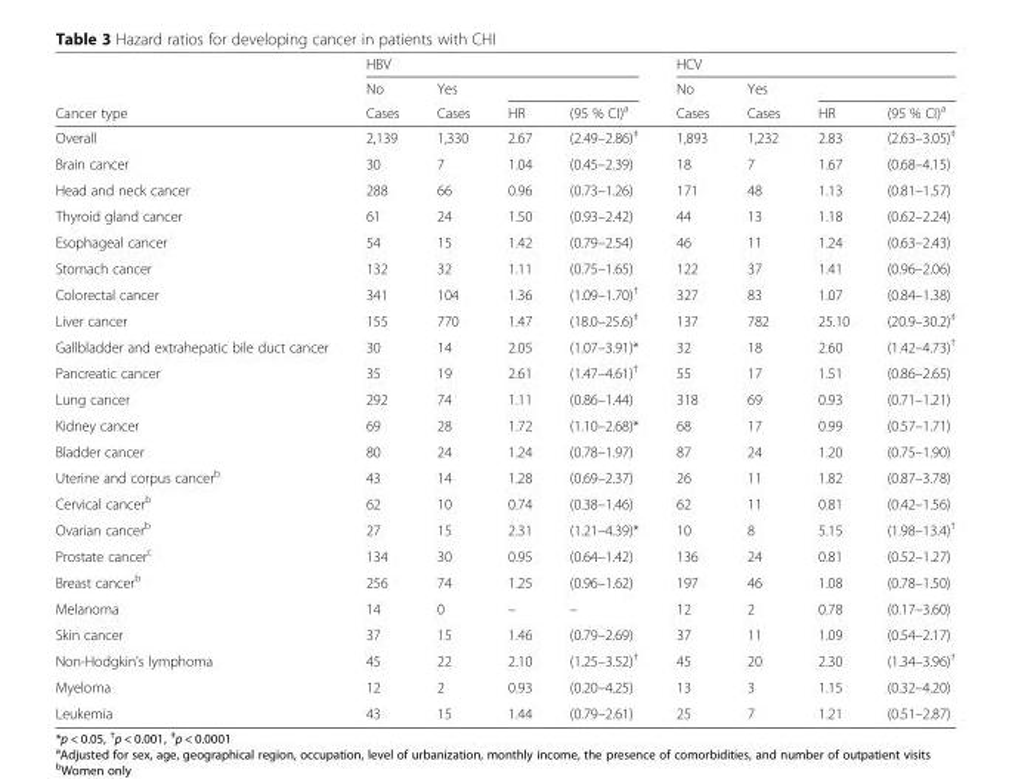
<table><thead><tr><td rowspan="3">Cancer type</td><td colspan="4">HBV</td><td colspan="4">HCV</td></tr><tr><td rowspan="2">No Cases</td><td rowspan="2">Yes Cases</td><td rowspan="2">HR</td><td rowspan="2">(95 % CI)<sup>a</sup></td><td rowspan="2">No Cases</td><td rowspan="2">Yes Cases</td><td rowspan="2">HR</td><td rowspan="2">(95 % CI)<sup>a</sup></td></tr><tr></tr></thead><tbody><tr><td>Overall</td><td>2,139</td><td>1,330</td><td>2.67</td><td>(2.49–2.86)<sup>‡</sup></td><td>1,893</td><td>1,232</td><td>2.83</td><td>(2.63–3.05)<sup>‡</sup></td></tr><tr><td>Brain cancer</td><td>30</td><td>7</td><td>1.04</td><td>(0.45–2.39)</td><td>18</td><td>7</td><td>1.67</td><td>(0.68–4.15)</td></tr><tr><td>Head and neck cancer</td><td>288</td><td>66</td><td>0.96</td><td>(0.73–1.26)</td><td>171</td><td>48</td><td>1.13</td><td>(0.81–1.57)</td></tr><tr><td>Thyroid gland cancer</td><td>61</td><td>24</td><td>1.50</td><td>(0.93–2.42)</td><td>44</td><td>13</td><td>1.18</td><td>(0.62–2.24)</td></tr><tr><td>Esophageal cancer</td><td>54</td><td>15</td><td>1.42</td><td>(0.79–2.54)</td><td>46</td><td>11</td><td>1.24</td><td>(0.63–2.43)</td></tr><tr><td>Stomach cancer</td><td>132</td><td>32</td><td>1.11</td><td>(0.75–1.65)</td><td>122</td><td>37</td><td>1.41</td><td>(0.96–2.06)</td></tr><tr><td>Colorectal cancer</td><td>341</td><td>104</td><td>1.36</td><td>(1.09–1.70)<sup>†</sup></td><td>327</td><td>83</td><td>1.07</td><td>(0.84–1.38)</td></tr><tr><td>Liver cancer</td><td>155</td><td>770</td><td>1.47</td><td>(18.0–25.6)<sup>‡</sup></td><td>137</td><td>782</td><td>25.10</td><td>(20.9–30.2)<sup>‡</sup></td></tr><tr><td>Gallbladder and extrahepatic bile duct cancer</td><td>30</td><td>14</td><td>2.05</td><td>(1.07–3.91)*</td><td>32</td><td>18</td><td>2.60</td><td>(1.42–4.73)<sup>†</sup></td></tr><tr><td>Pancreatic cancer</td><td>35</td><td>19</td><td>2.61</td><td>(1.47–4.61)<sup>†</sup></td><td>55</td><td>17</td><td>1.51</td><td>(0.86–2.65)</td></tr><tr><td>Lung cancer</td><td>292</td><td>74</td><td>1.11</td><td>(0.86–1.44)</td><td>318</td><td>69</td><td>0.93</td><td>(0.71–1.21)</td></tr><tr><td>Kidney cancer</td><td>69</td><td>28</td><td>1.72</td><td>(1.10–2.68)*</td><td>68</td><td>17</td><td>0.99</td><td>(0.57–1.71)</td></tr><tr><td>Bladder cancer</td><td>80</td><td>24</td><td>1.24</td><td>(0.78–1.97)</td><td>87</td><td>24</td><td>1.20</td><td>(0.75–1.90)</td></tr><tr><td>Uterine and corpus cancer<sup>b</sup></td><td>43</td><td>14</td><td>1.28</td><td>(0.69–2.37)</td><td>26</td><td>11</td><td>1.82</td><td>(0.87–3.78)</td></tr><tr><td>Cervical cancer<sup>b</sup></td><td>62</td><td>10</td><td>0.74</td><td>(0.38–1.46)</td><td>62</td><td>11</td><td>0.81</td><td>(0.42–1.56)</td></tr><tr><td>Ovarian cancer<sup>b</sup></td><td>27</td><td>15</td><td>2.31</td><td>(1.21–4.39)*</td><td>10</td><td>8</td><td>5.15</td><td>(1.98–13.4)<sup>†</sup></td></tr><tr><td>Prostate cancer<sup>c</sup></td><td>134</td><td>30</td><td>0.95</td><td>(0.64–1.42)</td><td>136</td><td>24</td><td>0.81</td><td>(0.52–1.27)</td></tr><tr><td>Breast cancer<sup>b</sup></td><td>256</td><td>74</td><td>1.25</td><td>(0.96–1.62)</td><td>197</td><td>46</td><td>1.08</td><td>(0.78–1.50)</td></tr><tr><td>Melanoma</td><td>14</td><td>0</td><td>–</td><td>–</td><td>12</td><td>2</td><td>0.78</td><td>(0.17–3.60)</td></tr><tr><td>Skin cancer</td><td>37</td><td>15</td><td>1.46</td><td>(0.79–2.69)</td><td>37</td><td>11</td><td>1.09</td><td>(0.54–2.17)</td></tr><tr><td>Non-Hodgkin’s lymphoma</td><td>45</td><td>22</td><td>2.10</td><td>(1.25–3.52)<sup>†</sup></td><td>45</td><td>20</td><td>2.30</td><td>(1.34–3.96)<sup>†</sup></td></tr><tr><td>Myeloma</td><td>12</td><td>2</td><td>0.93</td><td>(0.20–4.25)</td><td>13</td><td>3</td><td>1.15</td><td>(0.32–4.20)</td></tr><tr><td>Leukemia</td><td>43</td><td>15</td><td>1.44</td><td>(0.79–2.61)</td><td>25</td><td>7</td><td>1.21</td><td>(0.51–2.87)</td></tr></tbody></table>